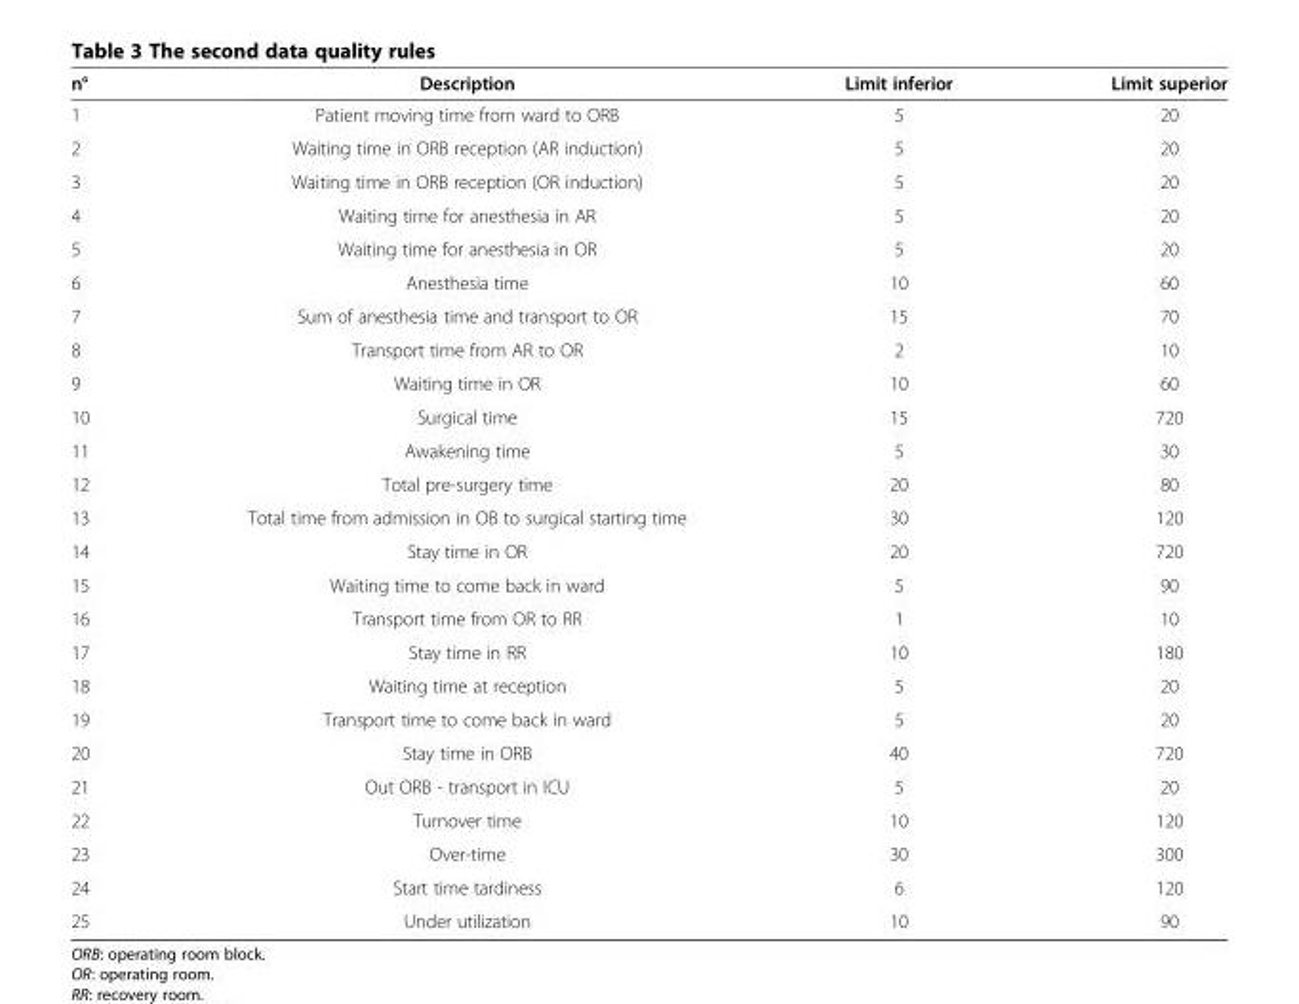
<table><thead><tr><td>n°</td><td>Description</td><td>Limit inferior</td><td>Limit superior</td></tr></thead><tbody><tr><td>1</td><td>Patient moving time from ward to ORB</td><td>5</td><td>20</td></tr><tr><td>2</td><td>Waiting time in ORB reception (AR induction)</td><td>5</td><td>20</td></tr><tr><td>3</td><td>Waiting time in ORB reception (OR induction)</td><td>5</td><td>20</td></tr><tr><td>4</td><td>Waiting time for anesthesia in AR</td><td>5</td><td>20</td></tr><tr><td>5</td><td>Waiting time for anesthesia in OR</td><td>5</td><td>20</td></tr><tr><td>6</td><td>Anesthesia time</td><td>10</td><td>60</td></tr><tr><td>7</td><td>Sum of anesthesia time and transport to OR</td><td>15</td><td>70</td></tr><tr><td>8</td><td>Transport time from AR to OR</td><td>2</td><td>10</td></tr><tr><td>9</td><td>Waiting time in OR</td><td>10</td><td>60</td></tr><tr><td>10</td><td>Surgical time</td><td>15</td><td>720</td></tr><tr><td>11</td><td>Awakening time</td><td>5</td><td>30</td></tr><tr><td>12</td><td>Total pre-surgery time</td><td>20</td><td>80</td></tr><tr><td>13</td><td>Total time from admission in OB to surgical starting time</td><td>30</td><td>120</td></tr><tr><td>14</td><td>Stay time in OR</td><td>20</td><td>720</td></tr><tr><td>15</td><td>Waiting time to come back in ward</td><td>5</td><td>90</td></tr><tr><td>16</td><td>Transport time from OR to RR</td><td>1</td><td>10</td></tr><tr><td>17</td><td>Stay time in RR</td><td>10</td><td>180</td></tr><tr><td>18</td><td>Waiting time at reception</td><td>5</td><td>20</td></tr><tr><td>19</td><td>Transport time to come back in ward</td><td>5</td><td>20</td></tr><tr><td>20</td><td>Stay time in ORB</td><td>40</td><td>720</td></tr><tr><td>21</td><td>Out ORB - transport in ICU</td><td>5</td><td>20</td></tr><tr><td>22</td><td>Turnover time</td><td>10</td><td>120</td></tr><tr><td>23</td><td>Over-time</td><td>30</td><td>300</td></tr><tr><td>24</td><td>Start time tardiness</td><td>6</td><td>120</td></tr><tr><td>25</td><td>Under utilization</td><td>10</td><td>90</td></tr></tbody></table>